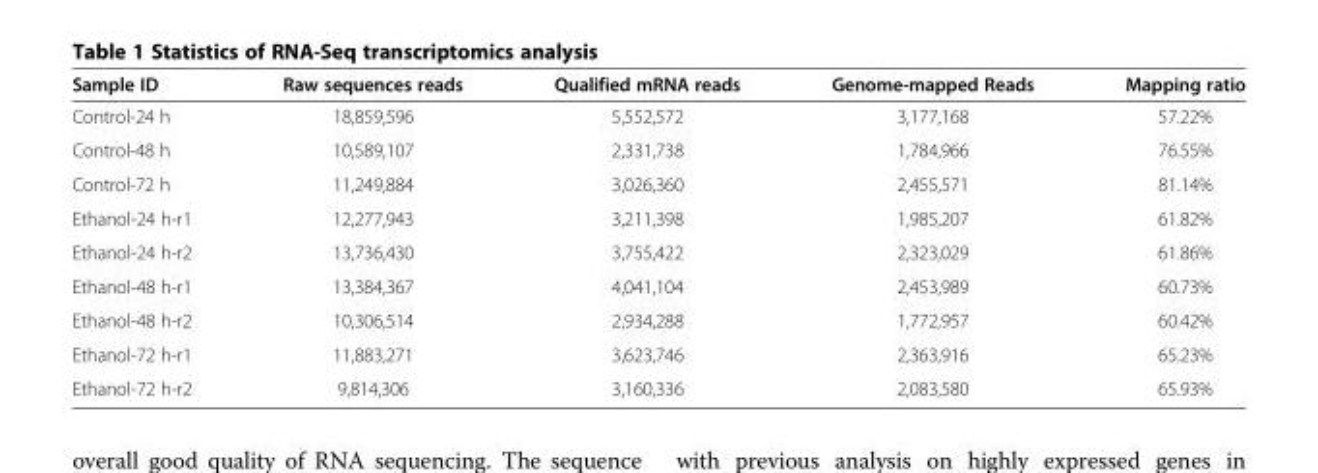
<table><thead><tr><td>Sample ID</td><td>Raw sequences reads</td><td>Qualified mRNA reads</td><td>Genome-mapped Reads</td><td>Mapping ratio</td></tr></thead><tbody><tr><td>Control-24 h</td><td>18,859,596</td><td>5,552,572</td><td>3,177,168</td><td>57.22%</td></tr><tr><td>Control-48 h</td><td>10,589,107</td><td>2,331,738</td><td>1,784,966</td><td>76.55%</td></tr><tr><td>Control-72 h</td><td>11,249,884</td><td>3,026,360</td><td>2,455,571</td><td>81.14%</td></tr><tr><td>Ethanol-24 h-r1</td><td>12,277,943</td><td>3,211,398</td><td>1,985,207</td><td>61.82%</td></tr><tr><td>Ethanol-24 h-r2</td><td>13,736,430</td><td>3,755,422</td><td>2,323,029</td><td>61.86%</td></tr><tr><td>Ethanol-48 h-r1</td><td>13,384,367</td><td>4,041,104</td><td>2,453,989</td><td>60.73%</td></tr><tr><td>Ethanol-48 h-r2</td><td>10,306,514</td><td>2,934,288</td><td>1,772,957</td><td>60.42%</td></tr><tr><td>Ethanol-72 h-r1</td><td>11,883,271</td><td>3,623,746</td><td>2,363,916</td><td>65.23%</td></tr><tr><td>Ethanol-72 h-r2</td><td>9,814,306</td><td>3,160,336</td><td>2,083,580</td><td>65.93%</td></tr></tbody></table>